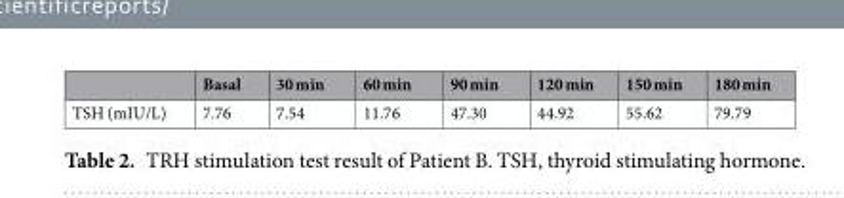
<table><thead><tr><td></td><td>Basal</td><td>30 min</td><td>60 min</td><td>90 min</td><td>120 min</td><td>150 min</td><td>180 min</td></tr></thead><tbody><tr><td>TSH (mIU/L)</td><td>7.76</td><td>7.54</td><td>11.76</td><td>47.30</td><td>44.92</td><td>55.62</td><td>79.79</td></tr></tbody></table>